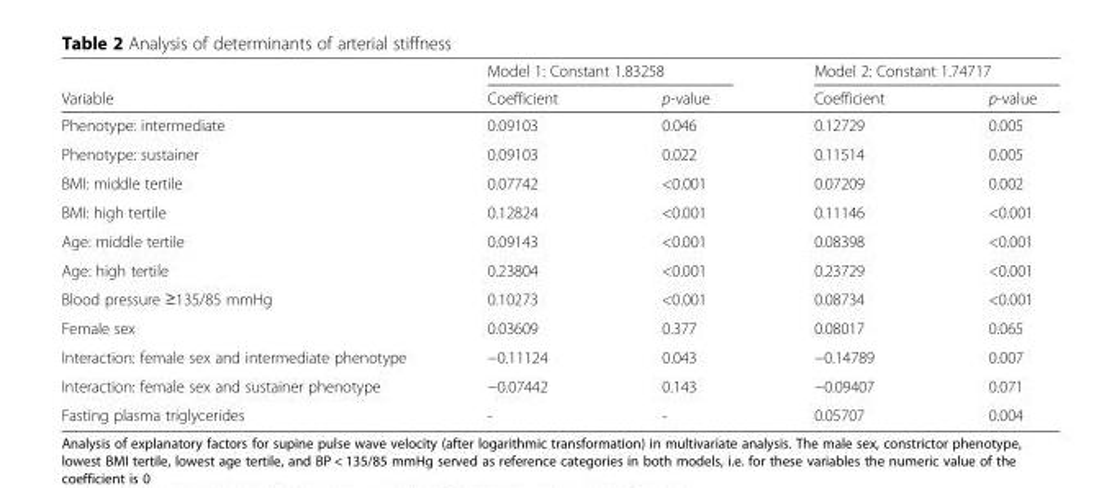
<table><thead><tr><td rowspan="2">Variable</td><td colspan="2">Model 1: Constant 1.83258</td><td colspan="2">Model 2: Constant 1.74717</td></tr><tr><td>Coefficient</td><td>p-value</td><td>Coefficient</td><td>p-value</td></tr></thead><tbody><tr><td>Phenotype: intermediate</td><td>0.09103</td><td>0.046</td><td>0.12729</td><td>0.005</td></tr><tr><td>Phenotype: sustainer</td><td>0.09103</td><td>0.022</td><td>0.11514</td><td>0.005</td></tr><tr><td>BMI: middle tertile</td><td>0.07742</td><td>&lt;0.001</td><td>0.07209</td><td>0.002</td></tr><tr><td>BMI: high tertile</td><td>0.12824</td><td>&lt;0.001</td><td>0.11146</td><td>&lt;0.001</td></tr><tr><td>Age: middle tertile</td><td>0.09143</td><td>&lt;0.001</td><td>0.08398</td><td>&lt;0.001</td></tr><tr><td>Age: high tertile</td><td>0.23804</td><td>&lt;0.001</td><td>0.23729</td><td>&lt;0.001</td></tr><tr><td>Blood pressure ≥135/85 mmHg</td><td>0.10273</td><td>&lt;0.001</td><td>0.08734</td><td>&lt;0.001</td></tr><tr><td>Female sex</td><td>0.03609</td><td>0.377</td><td>0.08017</td><td>0.065</td></tr><tr><td>Interaction: female sex and intermediate phenotype</td><td>−0.11124</td><td>0.043</td><td>−0.14789</td><td>0.007</td></tr><tr><td>Interaction: female sex and sustainer phenotype</td><td>−0.07442</td><td>0.143</td><td>−0.09407</td><td>0.071</td></tr><tr><td>Fasting plasma triglycerides</td><td>-</td><td>-</td><td>0.05707</td><td>0.004</td></tr></tbody></table>